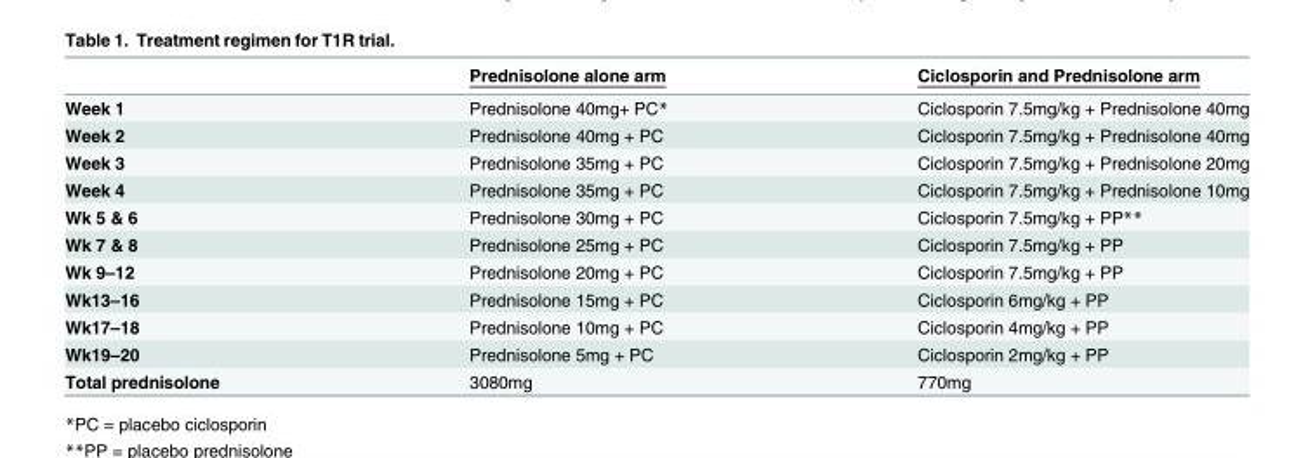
<table><thead><tr><td></td><td>Prednisolone alone arm</td><td>Ciclosporin and Prednisolone arm</td></tr></thead><tbody><tr><td>Week 1</td><td>Prednisolone 40mg+ PC*</td><td>Ciclosporin 7.5mg/kg + Prednisolone 40mg</td></tr><tr><td>Week 2</td><td>Prednisolone 40mg + PC</td><td>Ciclosporin 7.5mg/kg + Prednisolone 40mg</td></tr><tr><td>Week 3</td><td>Prednisolone 35mg + PC</td><td>Ciclosporin 7.5mg/kg + Prednisolone 20mg</td></tr><tr><td>Week 4</td><td>Prednisolone 35mg + PC</td><td>Ciclosporin 7.5mg/kg + Prednisolone 10mg</td></tr><tr><td>Wk 5 &amp; 6</td><td>Prednisolone 30mg + PC</td><td>Ciclosporin 7.5mg/kg + PP**</td></tr><tr><td>Wk 7 &amp; 8</td><td>Prednisolone 25mg + PC</td><td>Ciclosporin 7.5mg/kg + PP</td></tr><tr><td>Wk 9–12</td><td>Prednisolone 20mg + PC</td><td>Ciclosporin 7.5mg/kg + PP</td></tr><tr><td>Wk13–16</td><td>Prednisolone 15mg + PC</td><td>Ciclosporin 6mg/kg + PP</td></tr><tr><td>Wk17–18</td><td>Prednisolone 10mg + PC</td><td>Ciclosporin 4mg/kg + PP</td></tr><tr><td>Wk19–20</td><td>Prednisolone 5mg + PC</td><td>Ciclosporin 2mg/kg + PP</td></tr><tr><td>Total prednisolone</td><td>3080mg</td><td>770mg</td></tr></tbody></table>